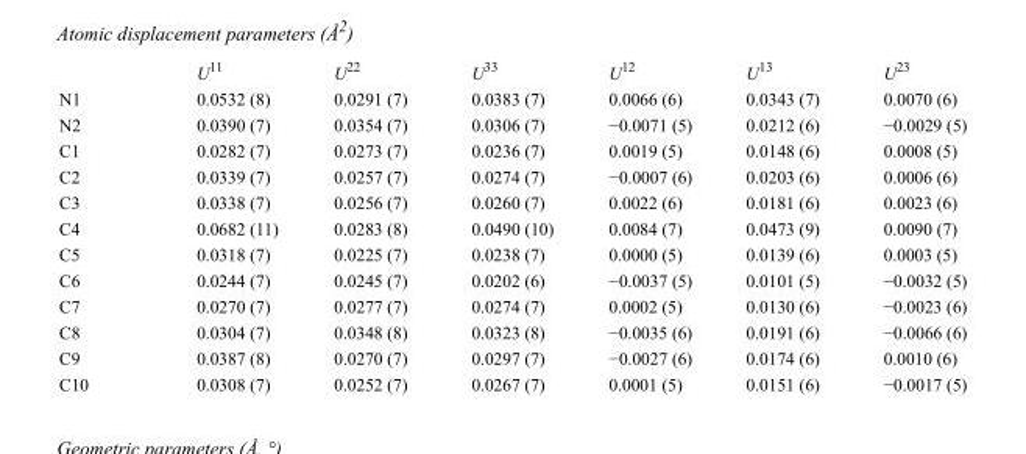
<table><thead><tr><td></td><td>U<sup>11</sup></td><td>U<sup>22</sup></td><td>U<sup>33</sup></td><td>U<sup>12</sup></td><td>U<sup>13</sup></td><td>U<sup>23</sup></td></tr></thead><tbody><tr><td>N1</td><td>0.0532 (8)</td><td>0.0291 (7)</td><td>0.0383 (7)</td><td>0.0066 (6)</td><td>0.0343 (7)</td><td>0.0070 (6)</td></tr><tr><td>N2</td><td>0.0390 (7)</td><td>0.0354 (7)</td><td>0.0306 (7)</td><td>−0.0071 (5)</td><td>0.0212 (6)</td><td>−0.0029 (5)</td></tr><tr><td>C1</td><td>0.0282 (7)</td><td>0.0273 (7)</td><td>0.0236 (7)</td><td>0.0019 (5)</td><td>0.0148 (6)</td><td>0.0008 (5)</td></tr><tr><td>C2</td><td>0.0339 (7)</td><td>0.0257 (7)</td><td>0.0274 (7)</td><td>−0.0007 (6)</td><td>0.0203 (6)</td><td>0.0006 (6)</td></tr><tr><td>C3</td><td>0.0338 (7)</td><td>0.0256 (7)</td><td>0.0260 (7)</td><td>0.0022 (6)</td><td>0.0181 (6)</td><td>0.0023 (6)</td></tr><tr><td>C4</td><td>0.0682 (11)</td><td>0.0283 (8)</td><td>0.0490 (10)</td><td>0.0084 (7)</td><td>0.0473 (9)</td><td>0.0090 (7)</td></tr><tr><td>C5</td><td>0.0318 (7)</td><td>0.0225 (7)</td><td>0.0238 (7)</td><td>0.0000 (5)</td><td>0.0139 (6)</td><td>0.0003 (5)</td></tr><tr><td>C6</td><td>0.0244 (7)</td><td>0.0245 (7)</td><td>0.0202 (6)</td><td>−0.0037 (5)</td><td>0.0101 (5)</td><td>−0.0032 (5)</td></tr><tr><td>C7</td><td>0.0270 (7)</td><td>0.0277 (7)</td><td>0.0274 (7)</td><td>0.0002 (5)</td><td>0.0130 (6)</td><td>−0.0023 (6)</td></tr><tr><td>C8</td><td>0.0304 (7)</td><td>0.0348 (8)</td><td>0.0323 (8)</td><td>−0.0035 (6)</td><td>0.0191 (6)</td><td>−0.0066 (6)</td></tr><tr><td>C9</td><td>0.0387 (8)</td><td>0.0270 (7)</td><td>0.0297 (7)</td><td>−0.0027 (6)</td><td>0.0174 (6)</td><td>0.0010 (6)</td></tr><tr><td>C10</td><td>0.0308 (7)</td><td>0.0252 (7)</td><td>0.0267 (7)</td><td>0.0001 (5)</td><td>0.0151 (6)</td><td>−0.0017 (5)</td></tr></tbody></table>